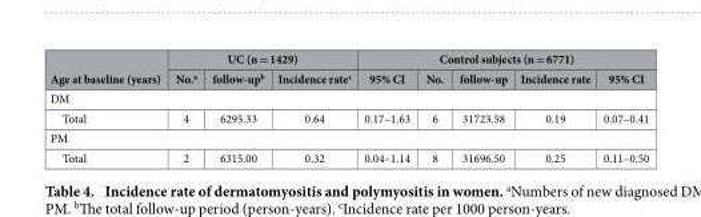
<table><thead><tr><td rowspan="2">Age at baseline (years)</td><td colspan="3">UC (n = 1429)</td><td colspan="5">Control subjects (n = 6771)</td></tr><tr><td>No.<sup>a</sup></td><td>follow-up<sup>b</sup></td><td>Incidence rate<sup>c</sup></td><td>95% CI</td><td>No.</td><td>follow-up</td><td>Incidence rate</td><td>95% CI</td></tr></thead><tbody><tr><td colspan="9">DM</td></tr><tr><td>Total</td><td>4</td><td>6295.33</td><td>0.64</td><td>0.17–1.63</td><td>6</td><td>31723.58</td><td>0.19</td><td>0.07–0.41</td></tr><tr><td colspan="9">PM</td></tr><tr><td>Total</td><td>2</td><td>6315.00</td><td>0.32</td><td>0.04–1.14</td><td>8</td><td>31696.50</td><td>0.25</td><td>0.11–0.50</td></tr></tbody></table>